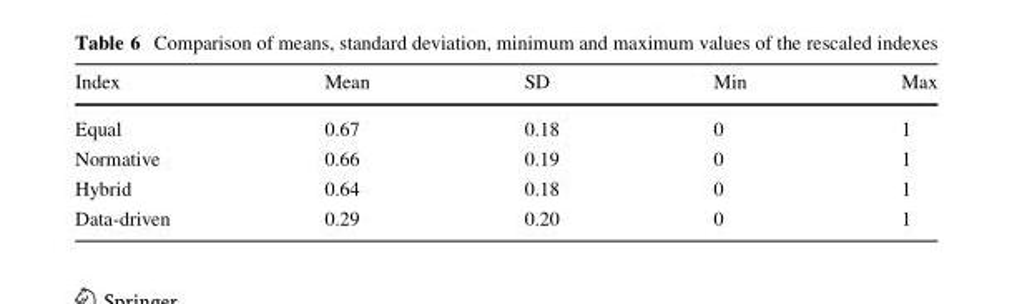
<table><thead><tr><td>Index</td><td>Mean</td><td>SD</td><td>Min</td><td>Max</td></tr></thead><tbody><tr><td>Equal</td><td>0.67</td><td>0.18</td><td>0</td><td>1</td></tr><tr><td>Normative</td><td>0.66</td><td>0.19</td><td>0</td><td>1</td></tr><tr><td>Hybrid</td><td>0.64</td><td>0.18</td><td>0</td><td>1</td></tr><tr><td>Data-driven</td><td>0.29</td><td>0.20</td><td>0</td><td>1</td></tr></tbody></table>